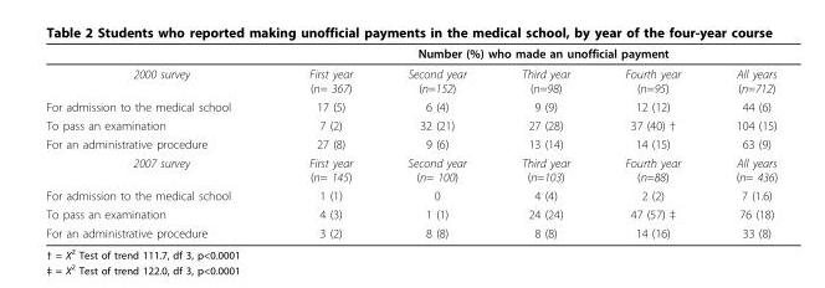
<table><thead><tr><td rowspan="2">2000 survey</td><td colspan="5">Number (%) who made an unofficial payment</td></tr><tr><td>First year (n= 367)</td><td>Second year (n=152)</td><td>Third year (n=98)</td><td>Fourth year (n=95)</td><td>All years (n=712)</td></tr></thead><tbody><tr><td>For admission to the medical school</td><td>17 (5)</td><td>6 (4)</td><td>9 (9)</td><td>12 (12)</td><td>44 (6)</td></tr><tr><td>To pass an examination</td><td>7 (2)</td><td>32 (21)</td><td>27 (28)</td><td>37 (40) †</td><td>104 (15)</td></tr><tr><td>For an administrative procedure</td><td>27 (8)</td><td>9 (6)</td><td>13 (14)</td><td>14 (15)</td><td>63 (9)</td></tr><tr><td>2007 survey</td><td>First year (n= 145)</td><td>Second year (n= 100)</td><td>Third year (n=103)</td><td>Fourth year (n=88)</td><td>All years (n= 436)</td></tr><tr><td>For admission to the medical school</td><td>1 (1)</td><td>0</td><td>4 (4)</td><td>2 (2)</td><td>7 (1.6)</td></tr><tr><td>To pass an examination</td><td>4 (3)</td><td>1 (1)</td><td>24 (24)</td><td>47 (57) ‡</td><td>76 (18)</td></tr><tr><td>For an administrative procedure</td><td>3 (2)</td><td>8 (8)</td><td>8 (8)</td><td>14 (16)</td><td>33 (8)</td></tr></tbody></table>